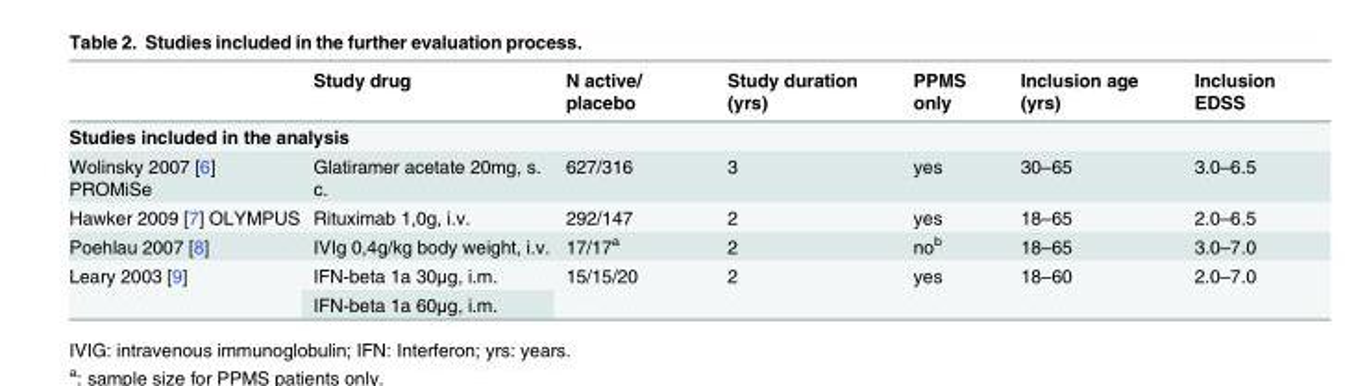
<table><thead><tr><td></td><td>Study drug</td><td>N active/ placebo</td><td>Study duration (yrs)</td><td>PPMS only</td><td>Inclusion age (yrs)</td><td>Inclusion EDSS</td></tr></thead><tbody><tr><td colspan="7">Studies included in the analysis</td></tr><tr><td>Wolinsky 2007 [6] PROMiSe</td><td>Glatiramer acetate 20mg, s. c.</td><td>627/316</td><td>3</td><td>yes</td><td>30–65</td><td>3.0–6.5</td></tr><tr><td>Hawker 2009 [7] OLYMPUS</td><td>Rituximab 1,0g, i.v.</td><td>292/147</td><td>2</td><td>yes</td><td>18–65</td><td>2.0–6.5</td></tr><tr><td>Poehlau 2007 [8]</td><td>IVIg 0,4g/kg body weight, i.v.</td><td>17/17<sup>a</sup></td><td>2</td><td>no<sup>b</sup></td><td>18–65</td><td>3.0–7.0</td></tr><tr><td rowspan="2">Leary 2003 [9]</td><td>IFN-beta 1a 30μg, i.m.</td><td rowspan="2">15/15/20</td><td rowspan="2">2</td><td rowspan="2">yes</td><td rowspan="2">18–60</td><td rowspan="2">2.0–7.0</td></tr><tr><td>IFN-beta 1a 60μg, i.m.</td></tr></tbody></table>